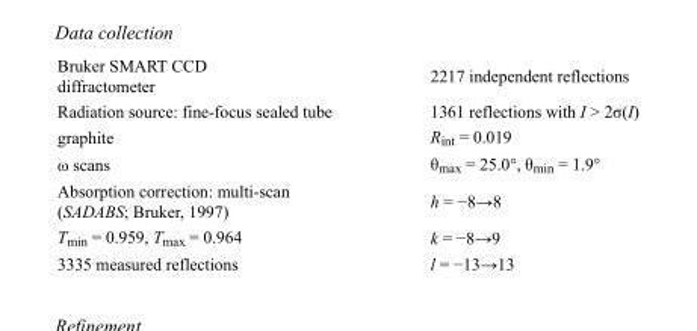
<table><tbody><tr><td>Bruker SMART CCD diffractometer</td><td>2217 independent reflections</td></tr><tr><td>Radiation source: fine-focus sealed tube</td><td>1361 reflections with I &gt; 2σ(I)</td></tr><tr><td>graphite</td><td>R<sub>int</sub> = 0.019</td></tr><tr><td>ω scans</td><td>θ<sub>max</sub> = 25.0°, θ<sub>min</sub> = 1.9°</td></tr><tr><td>Absorption correction: multi-scan (SADABS; Bruker, 1997)</td><td>h = −8→8</td></tr><tr><td>T<sub>min</sub> = 0.959, T<sub>max</sub> = 0.964</td><td>k = −8→9</td></tr><tr><td>3335 measured reflections</td><td>l = −13→13</td></tr></tbody></table>